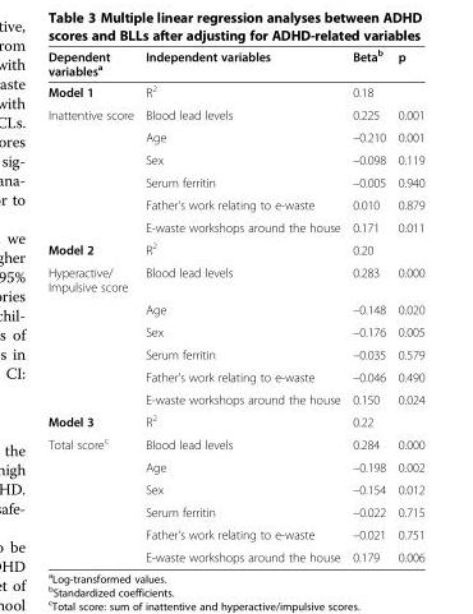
<table><thead><tr><td>Dependent variables<sup>a</sup></td><td>Independent variables</td><td>Beta<sup>b</sup></td><td>p</td></tr></thead><tbody><tr><td>Model 1</td><td>R<sup>2</sup></td><td>0.18</td><td></td></tr><tr><td rowspan="6">Inattentive score</td><td>Blood lead levels</td><td>0.225</td><td>0.001</td></tr><tr><td>Age</td><td>–0.210</td><td>0.001</td></tr><tr><td>Sex</td><td>–0.098</td><td>0.119</td></tr><tr><td>Serum ferritin</td><td>–0.005</td><td>0.940</td></tr><tr><td>Father’s work relating to e-waste</td><td>0.010</td><td>0.879</td></tr><tr><td>E-waste workshops around the house</td><td>0.171</td><td>0.011</td></tr><tr><td>Model 2</td><td>R<sup>2</sup></td><td>0.20</td><td></td></tr><tr><td rowspan="6">Hyperactive/ Impulsive score</td><td>Blood lead levels</td><td>0.283</td><td>0.000</td></tr><tr><td>Age</td><td>–0.148</td><td>0.020</td></tr><tr><td>Sex</td><td>–0.176</td><td>0.005</td></tr><tr><td>Serum ferritin</td><td>–0.035</td><td>0.579</td></tr><tr><td>Father’s work relating to e-waste</td><td>–0.046</td><td>0.490</td></tr><tr><td>E-waste workshops around the house</td><td>0.150</td><td>0.024</td></tr><tr><td>Model 3</td><td>R<sup>2</sup></td><td>0.22</td><td></td></tr><tr><td rowspan="6">Total score<sup>c</sup></td><td>Blood lead levels</td><td>0.284</td><td>0.000</td></tr><tr><td>Age</td><td>–0.198</td><td>0.002</td></tr><tr><td>Sex</td><td>–0.154</td><td>0.012</td></tr><tr><td>Serum ferritin</td><td>–0.022</td><td>0.715</td></tr><tr><td>Father’s work relating to e-waste</td><td>–0.021</td><td>0.751</td></tr><tr><td>E-waste workshops around the house</td><td>0.179</td><td>0.006</td></tr></tbody></table>